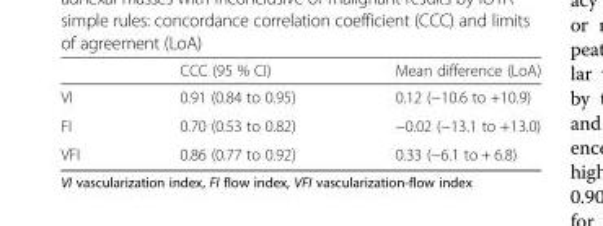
<table><thead><tr><td></td><td>CCC (95 % CI)</td><td>Mean difference (LoA)</td></tr></thead><tbody><tr><td>VI</td><td>0.91 (0.84 to 0.95)</td><td>0.12 (−10.6 to +10.9)</td></tr><tr><td>FI</td><td>0.70 (0.53 to 0.82)</td><td>−0.02 (−13.1 to +13.0)</td></tr><tr><td>VFI</td><td>0.86 (0.77 to 0.92)</td><td>0.33 (−6.1 to + 6.8)</td></tr></tbody></table>